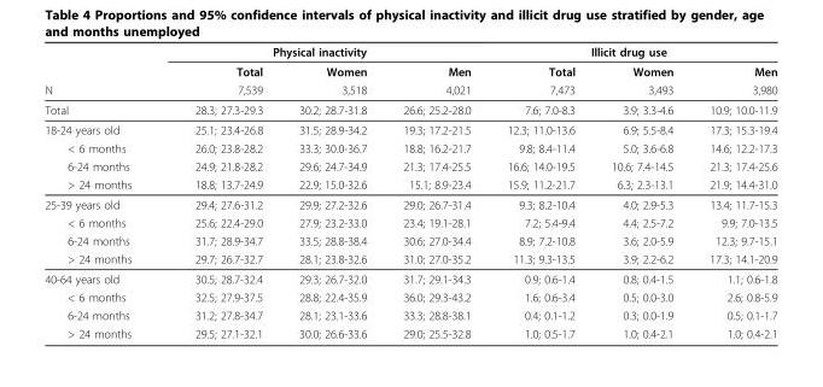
<table><thead><tr><td rowspan="3">N</td><td colspan="3">Physical inactivity</td><td colspan="3">Illicit drug use</td></tr><tr><td rowspan="2">Total 7,539</td><td rowspan="2">Women 3,518</td><td rowspan="2">Men 4,021</td><td rowspan="2">Total 7,473</td><td rowspan="2">Women 3,493</td><td rowspan="2">Men 3,980</td></tr><tr></tr></thead><tbody><tr><td>Total</td><td>28.3; 27.3-29.3</td><td>30.2; 28.7-31.8</td><td>26.6; 25.2-28.0</td><td>7.6; 7.0-8.3</td><td>3.9; 3.3-4.6</td><td>10.9; 10.0-11.9</td></tr><tr><td>18-24 years old</td><td>25.1; 23.4-26.8</td><td>31.5; 28.9-34.2</td><td>19.3; 17.2-21.5</td><td>12.3; 11.0-13.6</td><td>6.9; 5.5-8.4</td><td>17.3; 15.3-19.4</td></tr><tr><td>&lt; 6 months</td><td>26.0; 23.8-28.2</td><td>33.3; 30.0-36.7</td><td>18.8; 16.2-21.7</td><td>9.8; 8.4-11.4</td><td>5.0; 3.6-6.8</td><td>14.6; 12.2-17.3</td></tr><tr><td>6-24 months</td><td>24.9; 21.8-28.2</td><td>29.6; 24.7-34.9</td><td>21.3; 17.4-25.5</td><td>16.6; 14.0-19.5</td><td>10.6; 7.4-14.5</td><td>21.3; 17.4-25.6</td></tr><tr><td>&gt; 24 months</td><td>18.8; 13.7-24.9</td><td>22.9; 15.0-32.6</td><td>15.1; 8.9-23.4</td><td>15.9; 11.2-21.7</td><td>6.3; 2.3-13.1</td><td>21.9; 14.4-31.0</td></tr><tr><td>25-39 years old</td><td>29.4; 27.6-31.2</td><td>29.9; 27.2-32.6</td><td>29.0; 26.7-31.4</td><td>9.3; 8.2-10.4</td><td>4.0; 2.9-5.3</td><td>13.4; 11.7-15.3</td></tr><tr><td>&lt; 6 months</td><td>25.6; 22.4-29.0</td><td>27.9; 23.2-33.0</td><td>23.4; 19.1-28.1</td><td>7.2; 5.4-9.4</td><td>4.4; 2.5-7.2</td><td>9.9; 7.0-13.5</td></tr><tr><td>6-24 months</td><td>31.7; 28.9-34.7</td><td>33.5; 28.8-38.4</td><td>30.6; 27.0-34.4</td><td>8.9; 7.2-10.8</td><td>3.6; 2.0-5.9</td><td>12.3; 9.7-15.1</td></tr><tr><td>&gt; 24 months</td><td>29.7; 26.7-32.7</td><td>28.1; 23.8-32.6</td><td>31.0; 27.0-35.2</td><td>11.3; 9.3-13.5</td><td>3.9; 2.2-6.2</td><td>17.3; 14.1-20.9</td></tr><tr><td>40-64 years old</td><td>30.5; 28.7-32.4</td><td>29.3; 26.7-32.0</td><td>31.7; 29.1-34.3</td><td>0.9; 0.6-1.4</td><td>0.8; 0.4-1.5</td><td>1.1; 0.6-1.8</td></tr><tr><td>&lt; 6 months</td><td>32.5; 27.9-37.5</td><td>28.8; 22.4-35.9</td><td>36.0; 29.3-43.2</td><td>1.6; 0.6-3.4</td><td>0.5; 0.0-3.0</td><td>2.6; 0.8-5.9</td></tr><tr><td>6-24 months</td><td>31.2; 27.8-34.7</td><td>28.1; 23.1-33.6</td><td>33.3; 28.8-38.1</td><td>0.4; 0.1-1.2</td><td>0.3; 0.0-1.9</td><td>0.5; 0.1-1.7</td></tr><tr><td>&gt; 24 months</td><td>29.5; 27.1-32.1</td><td>30.0; 26.6-33.6</td><td>29.0; 25.5-32.8</td><td>1.0; 0.5-1.7</td><td>1.0; 0.4-2.1</td><td>1.0; 0.4-2.1</td></tr></tbody></table>